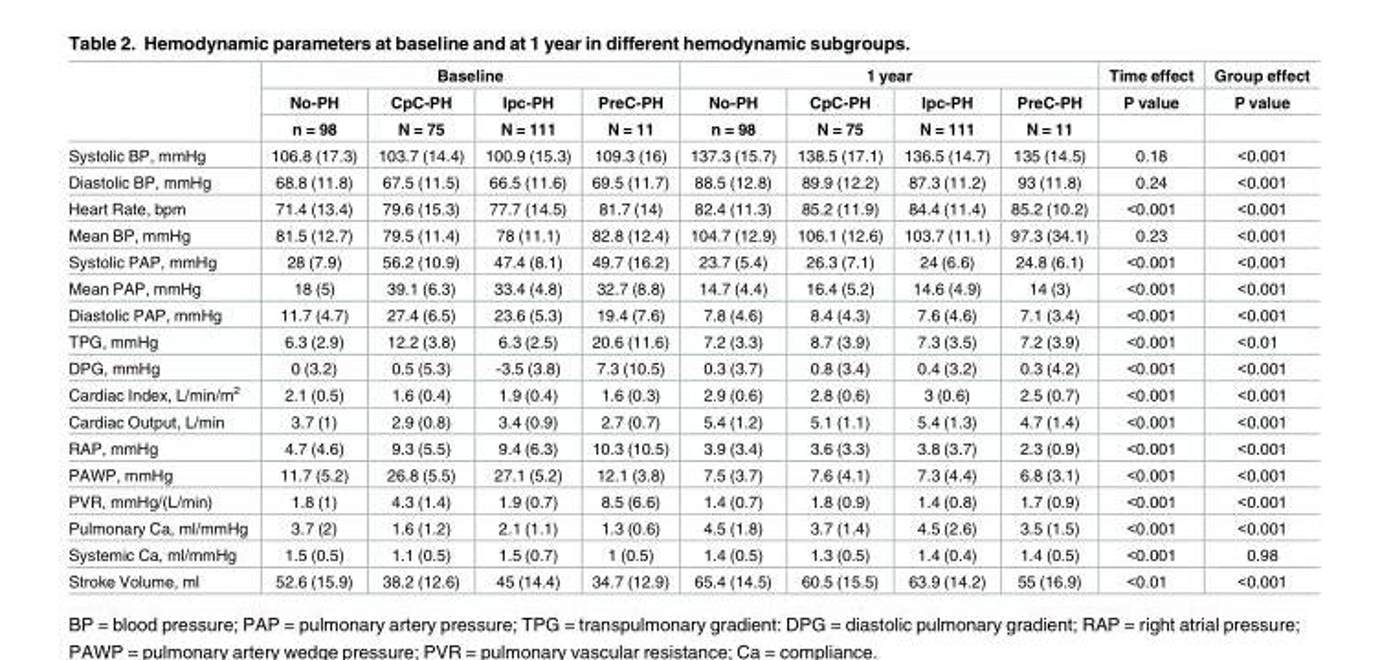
<table><thead><tr><td rowspan="3"></td><td colspan="4">Baseline</td><td colspan="4">1 year</td><td rowspan="3">Time effect P value</td><td rowspan="3">Group effect P value</td></tr><tr><td rowspan="2">No-PH n = 98</td><td rowspan="2">CpC-PH N = 75</td><td rowspan="2">Ipc-PH N = 111</td><td rowspan="2">PreC-PH N = 11</td><td rowspan="2">No-PH n = 98</td><td rowspan="2">CpC-PH N = 75</td><td rowspan="2">Ipc-PH N = 111</td><td rowspan="2">PreC-PH N = 11</td></tr><tr></tr></thead><tbody><tr><td>Systolic BP, mmHg</td><td>106.8 (17.3)</td><td>103.7 (14.4)</td><td>100.9 (15.3)</td><td>109.3 (16)</td><td>137.3 (15.7)</td><td>138.5 (17.1)</td><td>136.5 (14.7)</td><td>135 (14.5)</td><td>0.18</td><td>&lt;0.001</td></tr><tr><td>Diastolic BP, mmHg</td><td>68.8 (11.8)</td><td>67.5 (11.5)</td><td>66.5 (11.6)</td><td>69.5 (11.7)</td><td>88.5 (12.8)</td><td>89.9 (12.2)</td><td>87.3 (11.2)</td><td>93 (11.8)</td><td>0.24</td><td>&lt;0.001</td></tr><tr><td>Heart Rate, bpm</td><td>71.4 (13.4)</td><td>79.6 (15.3)</td><td>77.7 (14.5)</td><td>81.7 (14)</td><td>82.4 (11.3)</td><td>85.2 (11.9)</td><td>84.4 (11.4)</td><td>85.2 (10.2)</td><td>&lt;0.001</td><td>&lt;0.001</td></tr><tr><td>Mean BP, mmHg</td><td>81.5 (12.7)</td><td>79.5 (11.4)</td><td>78 (11.1)</td><td>82.8 (12.4)</td><td>104.7 (12.9)</td><td>106.1 (12.6)</td><td>103.7 (11.1)</td><td>97.3 (34.1)</td><td>0.23</td><td>&lt;0.001</td></tr><tr><td>Systolic PAP, mmHg</td><td>28 (7.9)</td><td>56.2 (10.9)</td><td>47.4 (8.1)</td><td>49.7 (16.2)</td><td>23.7 (5.4)</td><td>26.3 (7.1)</td><td>24 (6.6)</td><td>24.8 (6.1)</td><td>&lt;0.001</td><td>&lt;0.001</td></tr><tr><td>Mean PAP, mmHg</td><td>18 (5)</td><td>39.1 (6.3)</td><td>33.4 (4.8)</td><td>32.7 (8.8)</td><td>14.7 (4.4)</td><td>16.4 (5.2)</td><td>14.6 (4.9)</td><td>14 (3)</td><td>&lt;0.001</td><td>&lt;0.001</td></tr><tr><td>Diastolic PAP, mmHg</td><td>11.7 (4.7)</td><td>27.4 (6.5)</td><td>23.6 (5.3)</td><td>19.4 (7.6)</td><td>7.8 (4.6)</td><td>8.4 (4.3)</td><td>7.6 (4.6)</td><td>7.1 (3.4)</td><td>&lt;0.001</td><td>&lt;0.001</td></tr><tr><td>TPG, mmHg</td><td>6.3 (2.9)</td><td>12.2 (3.8)</td><td>6.3 (2.5)</td><td>20.6 (11.6)</td><td>7.2 (3.3)</td><td>8.7 (3.9)</td><td>7.3 (3.5)</td><td>7.2 (3.9)</td><td>&lt;0.001</td><td>&lt;0.01</td></tr><tr><td>DPG, mmHg</td><td>0 (3.2)</td><td>0.5 (5.3)</td><td>-3.5 (3.8)</td><td>7.3 (10.5)</td><td>0.3 (3.7)</td><td>0.8 (3.4)</td><td>0.4 (3.2)</td><td>0.3 (4.2)</td><td>&lt;0.001</td><td>&lt;0.001</td></tr><tr><td>Cardiac Index, L/min/m<sup>2</sup></td><td>2.1 (0.5)</td><td>1.6 (0.4)</td><td>1.9 (0.4)</td><td>1.6 (0.3)</td><td>2.9 (0.6)</td><td>2.8 (0.6)</td><td>3 (0.6)</td><td>2.5 (0.7)</td><td>&lt;0.001</td><td>&lt;0.001</td></tr><tr><td>Cardiac Output, L/min</td><td>3.7 (1)</td><td>2.9 (0.8)</td><td>3.4 (0.9)</td><td>2.7 (0.7)</td><td>5.4 (1.2)</td><td>5.1 (1.1)</td><td>5.4 (1.3)</td><td>4.7 (1.4)</td><td>&lt;0.001</td><td>&lt;0.001</td></tr><tr><td>RAP, mmHg</td><td>4.7 (4.6)</td><td>9.3 (5.5)</td><td>9.4 (6.3)</td><td>10.3 (10.5)</td><td>3.9 (3.4)</td><td>3.6 (3.3)</td><td>3.8 (3.7)</td><td>2.3 (0.9)</td><td>&lt;0.001</td><td>&lt;0.001</td></tr><tr><td>PAWP, mmHg</td><td>11.7 (5.2)</td><td>26.8 (5.5)</td><td>27.1 (5.2)</td><td>12.1 (3.8)</td><td>7.5 (3.7)</td><td>7.6 (4.1)</td><td>7.3 (4.4)</td><td>6.8 (3.1)</td><td>&lt;0.001</td><td>&lt;0.001</td></tr><tr><td>PVR, mmHg/(L/min)</td><td>1.8 (1)</td><td>4.3 (1.4)</td><td>1.9 (0.7)</td><td>8.5 (6.6)</td><td>1.4 (0.7)</td><td>1.8 (0.9)</td><td>1.4 (0.8)</td><td>1.7 (0.9)</td><td>&lt;0.001</td><td>&lt;0.001</td></tr><tr><td>Pulmonary Ca, ml/mmHg</td><td>3.7 (2)</td><td>1.6 (1.2)</td><td>2.1 (1.1)</td><td>1.3 (0.6)</td><td>4.5 (1.8)</td><td>3.7 (1.4)</td><td>4.5 (2.6)</td><td>3.5 (1.5)</td><td>&lt;0.001</td><td>&lt;0.001</td></tr><tr><td>Systemic Ca, ml/mmHg</td><td>1.5 (0.5)</td><td>1.1 (0.5)</td><td>1.5 (0.7)</td><td>1 (0.5)</td><td>1.4 (0.5)</td><td>1.3 (0.5)</td><td>1.4 (0.4)</td><td>1.4 (0.5)</td><td>&lt;0.001</td><td>0.98</td></tr><tr><td>Stroke Volume, ml</td><td>52.6 (15.9)</td><td>38.2 (12.6)</td><td>45 (14.4)</td><td>34.7 (12.9)</td><td>65.4 (14.5)</td><td>60.5 (15.5)</td><td>63.9 (14.2)</td><td>55 (16.9)</td><td>&lt;0.01</td><td>&lt;0.001</td></tr></tbody></table>